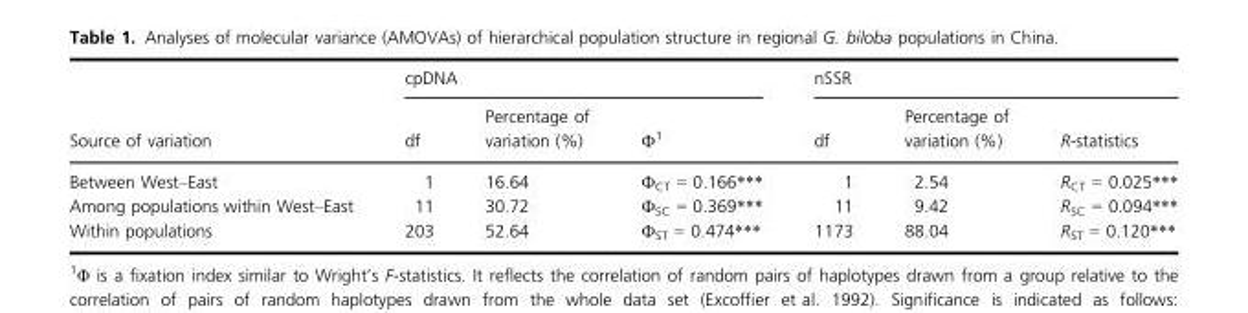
<table><thead><tr><td rowspan="2">Source of variation</td><td colspan="3">cpDNA</td><td colspan="3">nSSR</td></tr><tr><td>df</td><td>Percentage of variation (%)</td><td>Ф1</td><td>df</td><td>Percentage of variation (%)</td><td>R-statistics</td></tr></thead><tbody><tr><td>Between West–East</td><td>1</td><td>16.64</td><td>Ф<sub>CT</sub> = 0.166***</td><td>1</td><td>2.54</td><td>R<sub>CT</sub> = 0.025***</td></tr><tr><td>Among populations within West–East</td><td>11</td><td>30.72</td><td>Ф<sub>SC</sub> = 0.369***</td><td>11</td><td>9.42</td><td>R<sub>SC</sub> = 0.094***</td></tr><tr><td>Within populations</td><td>203</td><td>52.64</td><td>Ф<sub>ST</sub> = 0.474***</td><td>1173</td><td>88.04</td><td>R<sub>ST</sub> = 0.120***</td></tr></tbody></table>